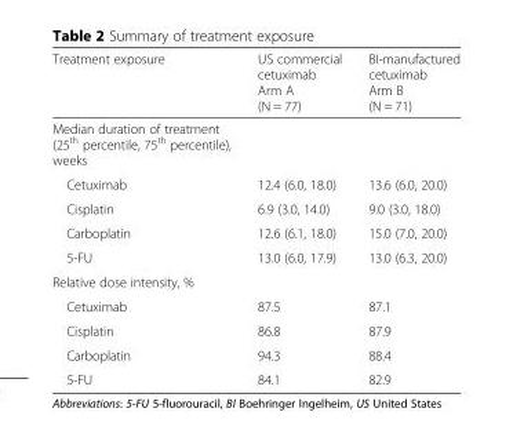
<table><thead><tr><td>Treatment exposure</td><td>US commercial cetuximab Arm A (N = 77)</td><td>BI-manufactured cetuximab Arm B (N = 71)</td></tr></thead><tbody><tr><td colspan="3">Median duration of treatment (25<sup>th</sup> percentile, 75<sup>th</sup> percentile), weeks</td></tr><tr><td>Cetuximab</td><td>12.4 (6.0, 18.0)</td><td>13.6 (6.0, 20.0)</td></tr><tr><td>Cisplatin</td><td>6.9 (3.0, 14.0)</td><td>9.0 (3.0, 18.0)</td></tr><tr><td>Carboplatin</td><td>12.6 (6.1, 18.0)</td><td>15.0 (7.0, 20.0)</td></tr><tr><td>5-FU</td><td>13.0 (6.0, 17.9)</td><td>13.0 (6.3, 20.0)</td></tr><tr><td colspan="3">Relative dose intensity, %</td></tr><tr><td>Cetuximab</td><td>87.5</td><td>87.1</td></tr><tr><td>Cisplatin</td><td>86.8</td><td>87.9</td></tr><tr><td>Carboplatin</td><td>94.3</td><td>88.4</td></tr><tr><td>5-FU</td><td>84.1</td><td>82.9</td></tr></tbody></table>